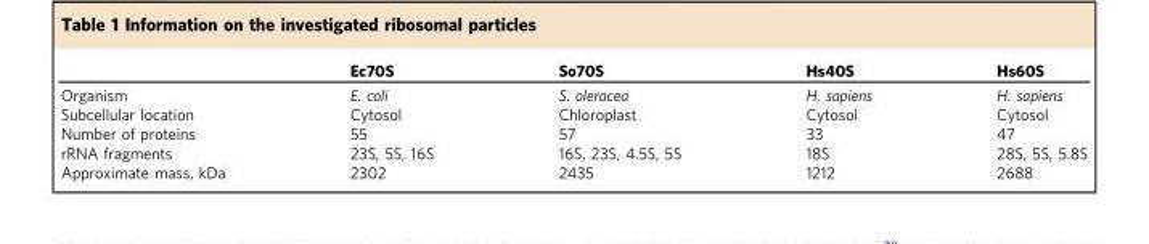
<table><thead><tr><td></td><td>Ec70S</td><td>So70S</td><td>Hs40S</td><td>Hs60S</td></tr></thead><tbody><tr><td>Organism</td><td>E. coli</td><td>S. oleracea</td><td>H. sapiens</td><td>H. sapiens</td></tr><tr><td>Subcellular location</td><td>Cytosol</td><td>Chloroplast</td><td>Cytosol</td><td>Cytosol</td></tr><tr><td>Number of proteins</td><td>55</td><td>57</td><td>33</td><td>47</td></tr><tr><td>rRNA fragments</td><td>23S, 5S, 16S</td><td>16S, 23S, 4.5S, 5S</td><td>18S</td><td>28S, 5S, 5.8S</td></tr><tr><td>Approximate mass, kDa</td><td>2302</td><td>2435</td><td>1212</td><td>2688</td></tr></tbody></table>